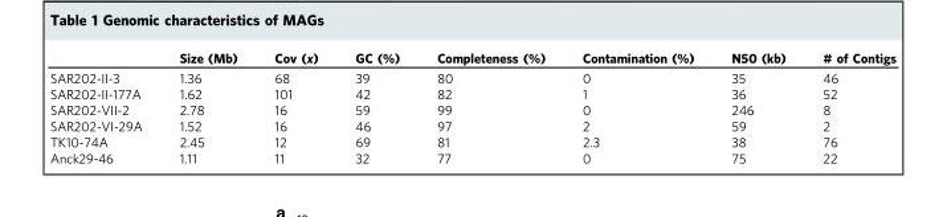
<table><thead><tr><td></td><td>Size (Mb)</td><td>Cov (x)</td><td>GC (%)</td><td>Completeness (%)</td><td>Contamination (%)</td><td>N50 (kb)</td><td># of Contigs</td></tr></thead><tbody><tr><td>SAR202-II-3</td><td>1.36</td><td>68</td><td>39</td><td>80</td><td>0</td><td>35</td><td>46</td></tr><tr><td>SAR202-II-177A</td><td>1.62</td><td>101</td><td>42</td><td>82</td><td>1</td><td>36</td><td>52</td></tr><tr><td>SAR202-VII-2</td><td>2.78</td><td>16</td><td>59</td><td>99</td><td>0</td><td>246</td><td>8</td></tr><tr><td>SAR202-VI-29A</td><td>1.52</td><td>16</td><td>46</td><td>97</td><td>2</td><td>59</td><td>2</td></tr><tr><td>TK10-74A</td><td>2.45</td><td>12</td><td>69</td><td>81</td><td>2.3</td><td>38</td><td>76</td></tr><tr><td>Anck29-46</td><td>1.11</td><td>11</td><td>32</td><td>77</td><td>0</td><td>75</td><td>22</td></tr></tbody></table>